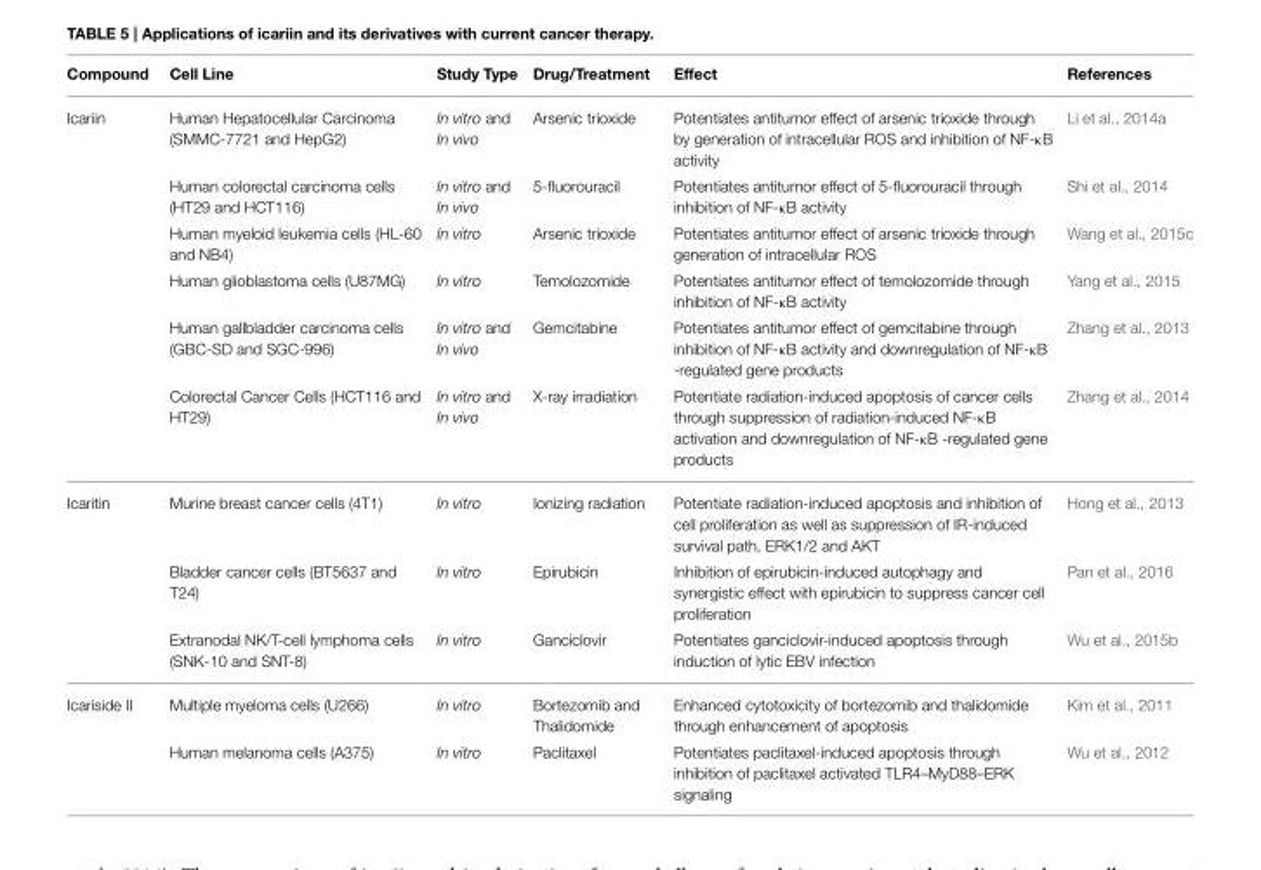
<table><thead><tr><td>Compound</td><td>Cell Line</td><td>Study Type</td><td>Drug/Treatment</td><td>Effect</td><td>References</td></tr></thead><tbody><tr><td rowspan="6">Icariin</td><td>Human Hepatocellular Carcinoma (SMMC-7721 and HepG2)</td><td>In vitro and In vivo</td><td>Arsenic trioxide</td><td>Potentiates antitumor effect of arsenic trioxide through by generation of intracellular ROS and inhibition of NF-κB activity</td><td>Li et al., 2014a</td></tr><tr><td>Human colorectal carcinoma cells (HT29 and HCT116)</td><td>In vitro and In vivo</td><td>5-fluorouracil</td><td>Potentiates antitumor effect of 5-fluorouracil through inhibition of NF-κB activity</td><td>Shi et al., 2014</td></tr><tr><td>Human myeloid leukemia cells (HL-60 and NB4)</td><td>In vitro</td><td>Arsenic trioxide</td><td>Potentiates antitumor effect of arsenic trioxide through generation of intracellular ROS</td><td>Wang et al., 2015c</td></tr><tr><td>Human glioblastoma cells (U87MG)</td><td>In vitro</td><td>Temolozomide</td><td>Potentiates antitumor effect of temolozomide through inhibition of NF-κB activity</td><td>Yang et al., 2015</td></tr><tr><td>Human gallbladder carcinoma cells (GBC-SD and SGC-996)</td><td>In vitro and In vivo</td><td>Gemcitabine</td><td>Potentiates antitumor effect of gemcitabine through inhibition of NF-κB activity and downregulation of NF-κB -regulated gene products</td><td>Zhang et al., 2013</td></tr><tr><td>Colorectal Cancer Cells (HCT116 and HT29)</td><td>In vitro and In vivo</td><td>X-ray irradiation</td><td>Potentiate radiation-induced apoptosis of cancer cells through suppression of radiation-induced NF-κB activation and downregulation of NF-κB -regulated gene products</td><td>Zhang et al., 2014</td></tr><tr><td rowspan="3">Icaritin</td><td>Murine breast cancer cells (4T1)</td><td>In vitro</td><td>Ionizing radiation</td><td>Potentiate radiation-induced apoptosis and inhibition of cell proliferation as well as suppression of IR-induced survival path, ERK1/2 and AKT</td><td>Hong et al., 2013</td></tr><tr><td>Bladder cancer cells (BT5637 and T24)</td><td>In vitro</td><td>Epirubicin</td><td>Inhibition of epirubicin-induced autophagy and synergistic effect with epirubicin to suppress cancer cell proliferation</td><td>Pan et al., 2016</td></tr><tr><td>Extranodal NK/T-cell lymphoma cells (SNK-10 and SNT-8)</td><td>In vitro</td><td>Ganciclovir</td><td>Potentiates ganciclovir-induced apoptosis through induction of lytic EBV infection</td><td>Wu et al., 2015b</td></tr><tr><td rowspan="2">Icariside II</td><td>Multiple myeloma cells (U266)</td><td>In vitro</td><td>Bortezomib and Thalidomide</td><td>Enhanced cytotoxicity of bortezomib and thalidomide through enhancement of apoptosis</td><td>Kim et al., 2011</td></tr><tr><td>Human melanoma cells (A375)</td><td>In vitro</td><td>Paclitaxel</td><td>Potentiates paclitaxel-induced apoptosis through inhibition of paclitaxel activated TLR4–MyD88–ERK signaling</td><td>Wu et al., 2012</td></tr></tbody></table>